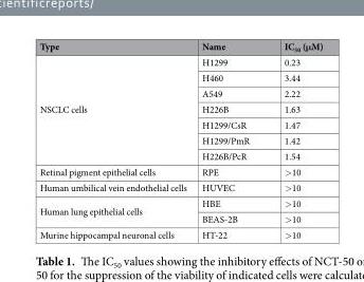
<table><thead><tr><td>Type</td><td>Name</td><td>IC<sub>50</sub> (μM)</td></tr></thead><tbody><tr><td rowspan="7">NSCLC cells</td><td>H1299</td><td>0.23</td></tr><tr><td>H460</td><td>3.44</td></tr><tr><td>A549</td><td>2.22</td></tr><tr><td>H226B</td><td>1.63</td></tr><tr><td>H1299/CsR</td><td>1.47</td></tr><tr><td>H1299/PmR</td><td>1.42</td></tr><tr><td>H226B/PcR</td><td>1.54</td></tr><tr><td>Retinal pigment epithelial cells</td><td>RPE</td><td>&gt;10</td></tr><tr><td>Human umbilical vein endothelial cells</td><td>HUVEC</td><td>&gt;10</td></tr><tr><td rowspan="2">Human lung epithelial cells</td><td>HBE</td><td>&gt;10</td></tr><tr><td>BEAS-2B</td><td>&gt;10</td></tr><tr><td>Murine hippocampal neuronal cells</td><td>HT-22</td><td>&gt;10</td></tr></tbody></table>